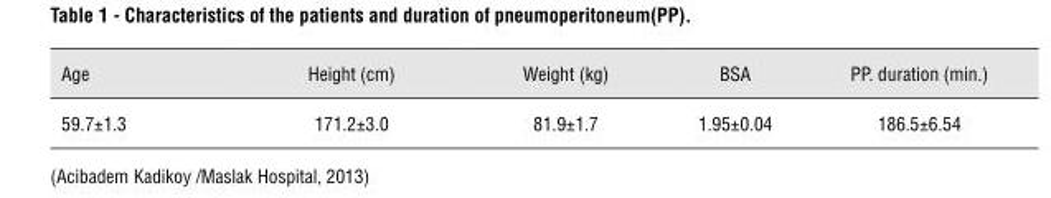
<table><thead><tr><td>Age</td><td>Height (cm)</td><td>Weight (kg)</td><td>BSA</td><td>PP. duration (min.)</td></tr></thead><tbody><tr><td>59.7±1.3</td><td>171.2±3.0</td><td>81.9±1.7</td><td>1.95±0.04</td><td>186.5±6.54</td></tr></tbody></table>